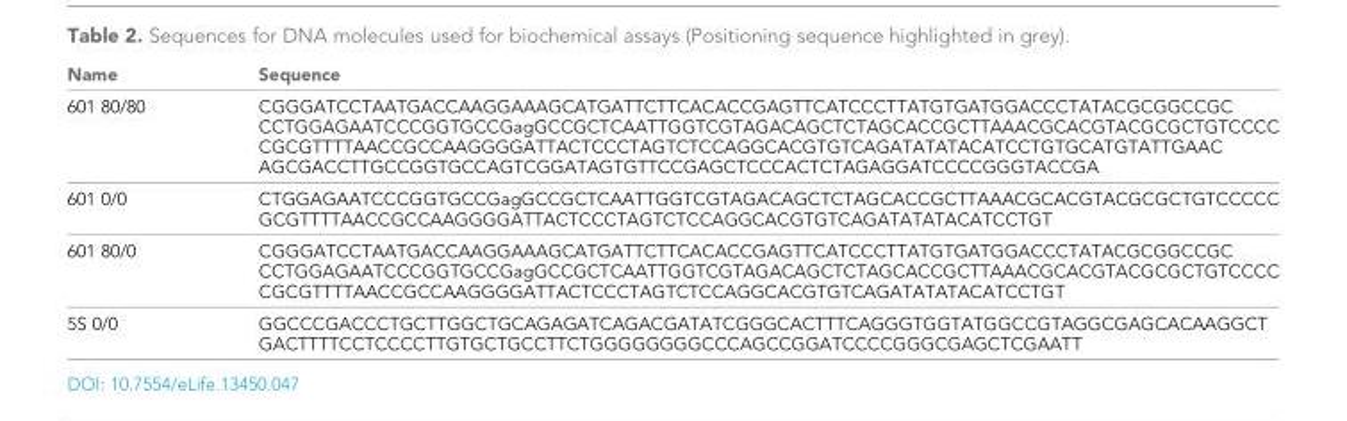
<table><thead><tr><td>Name</td><td>Sequence</td></tr></thead><tbody><tr><td>601 80/80</td><td>CGGGATCCTAATGACCAAGGAAAGCATGATTCTTCACACCGAGTTCATCCCTTATGTGATGGACCCTATACGCGGCCGC CCTGGAGAATCCCGGTGCCGagGCCGCTCAATTGGTCGTAGACAGCTCTAGCACCGCTTAAACGCACGTACGCGCTGTCCCC CGCGTTTTAACCGCCAAGGGGATTACTCCCTAGTCTCCAGGCACGTGTCAGATATATACATCCTGTGCATGTATTGAAC AGCGACCTTGCCGGTGCCAGTCGGATAGTGTTCCGAGCTCCCACTCTAGAGGATCCCCGGGTACCGA</td></tr><tr><td>601 0/0</td><td>CTGGAGAATCCCGGTGCCGagGCCGCTCAATTGGTCGTAGACAGCTCTAGCACCGCTTAAACGCACGTACGCGCTGTCCCCC GCGTTTTAACCGCCAAGGGGATTACTCCCTAGTCTCCAGGCACGTGTCAGATATATACATCCTGT</td></tr><tr><td>601 80/0</td><td>CGGGATCCTAATGACCAAGGAAAGCATGATTCTTCACACCGAGTTCATCCCTTATGTGATGGACCCTATACGCGGCCGC CCTGGAGAATCCCGGTGCCGagGCCGCTCAATTGGTCGTAGACAGCTCTAGCACCGCTTAAACGCACGTACGCGCTGTCCCC CGCGTTTTAACCGCCAAGGGGATTACTCCCTAGTCTCCAGGCACGTGTCAGATATATACATCCTGT</td></tr><tr><td>5S 0/0</td><td>GGCCCGACCCTGCTTGGCTGCAGAGATCAGACGATATCGGGCACTTTCAGGGTGGTATGGCCGTAGGCGAGCACAAGGCT GACTTTTCCTCCCCTTGTGCTGCCTTCTGGGGGGGGCCCAGCCGGATCCCCGGGCGAGCTCGAATT</td></tr></tbody></table>